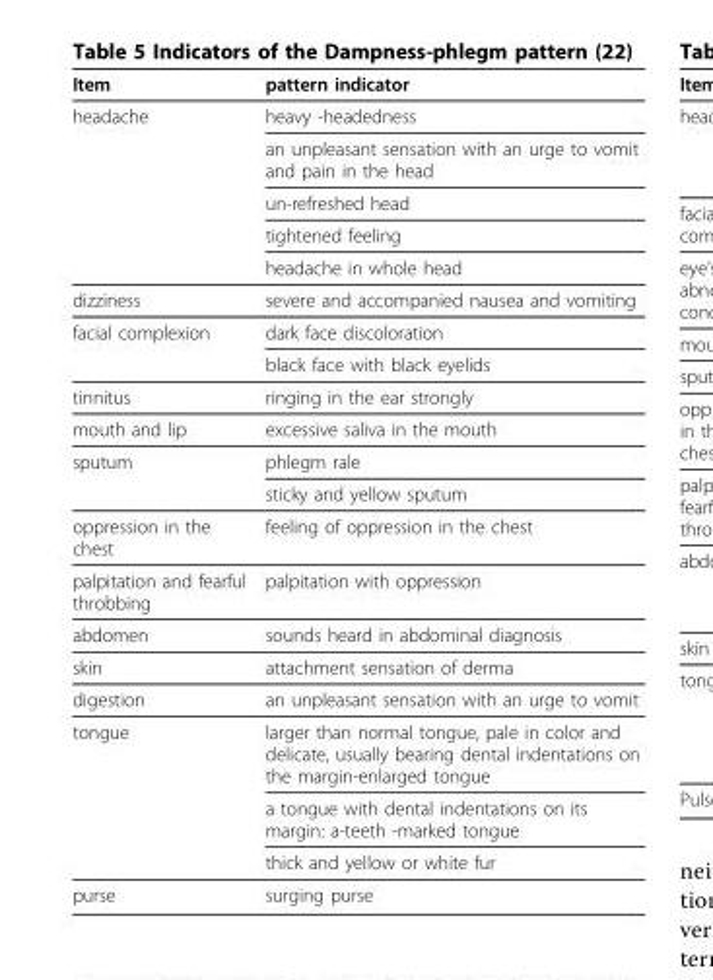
<table><thead><tr><td>Item</td><td>pattern indicator</td></tr></thead><tbody><tr><td rowspan="5">headache</td><td>heavy -headedness</td></tr><tr><td>an unpleasant sensation with an urge to vomit and pain in the head</td></tr><tr><td>un-refreshed head</td></tr><tr><td>tightened feeling</td></tr><tr><td>headache in whole head</td></tr><tr><td>dizziness</td><td>severe and accompanied nausea and vomiting</td></tr><tr><td rowspan="2">facial complexion</td><td>dark face discoloration</td></tr><tr><td>black face with black eyelids</td></tr><tr><td>tinnitus</td><td>ringing in the ear strongly</td></tr><tr><td>mouth and lip</td><td>excessive saliva in the mouth</td></tr><tr><td rowspan="2">sputum</td><td>phlegm rale</td></tr><tr><td>sticky and yellow sputum</td></tr><tr><td>oppression in the chest</td><td>feeling of oppression in the chest</td></tr><tr><td>palpitation and fearful throbbing</td><td>palpitation with oppression</td></tr><tr><td>abdomen</td><td>sounds heard in abdominal diagnosis</td></tr><tr><td>skin</td><td>attachment sensation of derma</td></tr><tr><td>digestion</td><td>an unpleasant sensation with an urge to vomit</td></tr><tr><td rowspan="3">tongue</td><td>larger than normal tongue, pale in color and delicate, usually bearing dental indentations on the margin-enlarged tongue</td></tr><tr><td>a tongue with dental indentations on its margin: a-teeth -marked tongue</td></tr><tr><td>thick and yellow or white fur</td></tr><tr><td>purse</td><td>surging purse</td></tr></tbody></table>